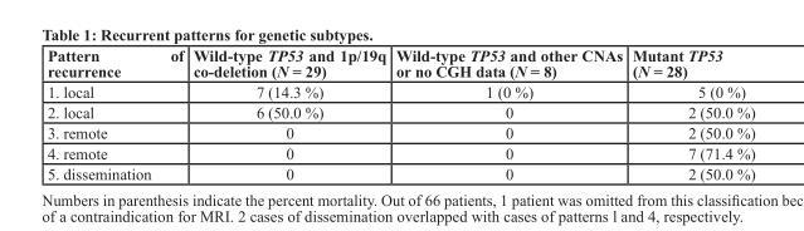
<table><thead><tr><td>Pattern of recurrence</td><td>Wild-type TP53 and 1p/19q co-deletion (N = 29)</td><td>Wild-type TP53 and other CNAs or no CGH data (N = 8)</td><td>Mutant TP53 (N = 28)</td></tr></thead><tbody><tr><td>1. local</td><td>7 (14.3 %)</td><td>1 (0 %)</td><td>5 (0 %)</td></tr><tr><td>2. local</td><td>6 (50.0 %)</td><td>0</td><td>2 (50.0 %)</td></tr><tr><td>3. remote</td><td>0</td><td>0</td><td>2 (50.0 %)</td></tr><tr><td>4. remote</td><td>0</td><td>0</td><td>7 (71.4 %)</td></tr><tr><td>5. dissemination</td><td>0</td><td>0</td><td>2 (50.0 %)</td></tr></tbody></table>